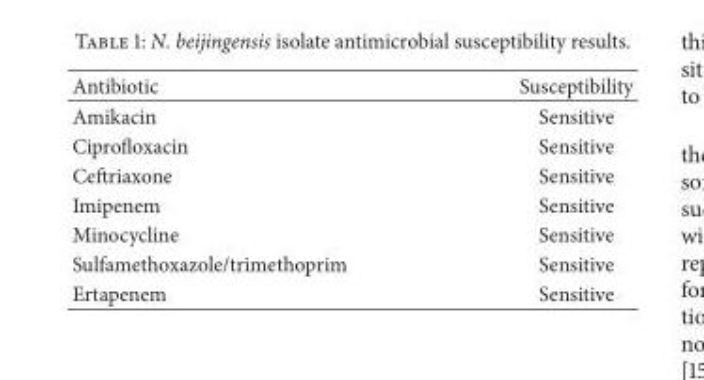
<table><thead><tr><td>Antibiotic</td><td>Susceptibility</td></tr></thead><tbody><tr><td>Amikacin</td><td>Sensitive</td></tr><tr><td>Ciprofloxacin</td><td>Sensitive</td></tr><tr><td>Ceftriaxone</td><td>Sensitive</td></tr><tr><td>Imipenem</td><td>Sensitive</td></tr><tr><td>Minocycline</td><td>Sensitive</td></tr><tr><td>Sulfamethoxazole/trimethoprim</td><td>Sensitive</td></tr><tr><td>Ertapenem</td><td>Sensitive</td></tr></tbody></table>